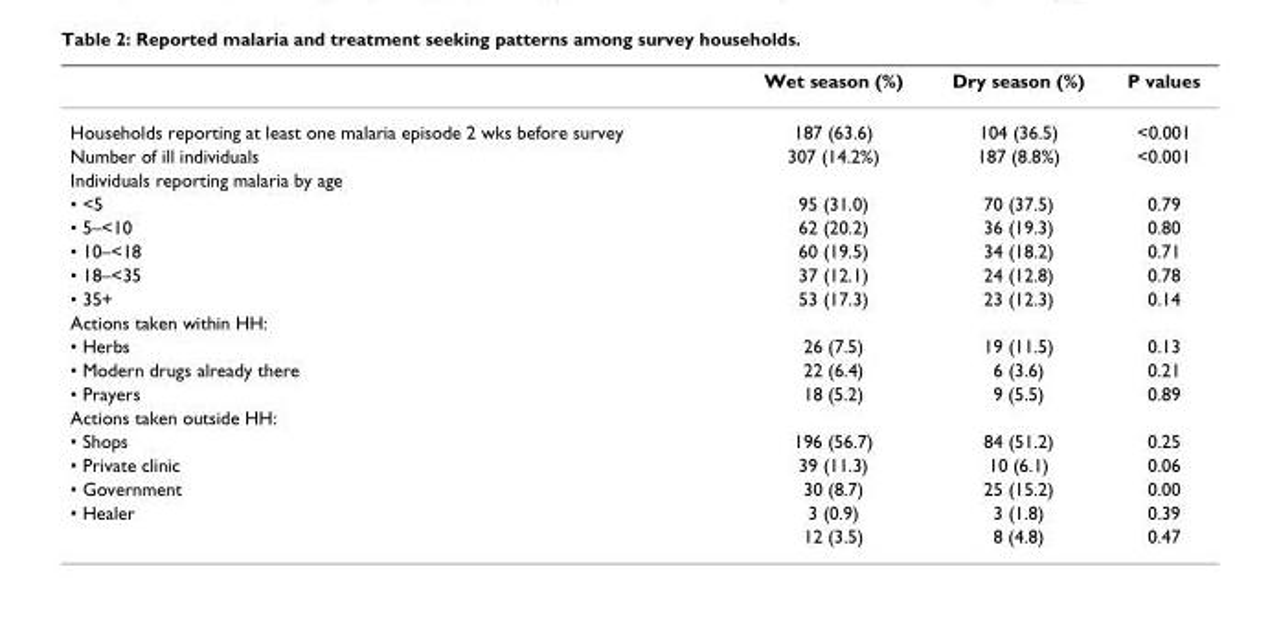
<table><thead><tr><td></td><td>Wet season (%)</td><td>Dry season (%)</td><td>P values</td></tr></thead><tbody><tr><td>Households reporting at least one malaria episode 2 wks before survey</td><td>187 (63.6)</td><td>104 (36.5)</td><td>&lt;0.001</td></tr><tr><td>Number of ill individuals</td><td>307 (14.2%)</td><td>187 (8.8%)</td><td>&lt;0.001</td></tr><tr><td colspan="4">Individuals reporting malaria by age</td></tr><tr><td>• &lt;5</td><td>95 (31.0)</td><td>70 (37.5)</td><td>0.79</td></tr><tr><td>• 5–&lt;10</td><td>62 (20.2)</td><td>36 (19.3)</td><td>0.80</td></tr><tr><td>• 10–&lt;18</td><td>60 (19.5)</td><td>34 (18.2)</td><td>0.71</td></tr><tr><td>• 18–&lt;35</td><td>37 (12.1)</td><td>24 (12.8)</td><td>0.78</td></tr><tr><td>• 35+</td><td>53 (17.3)</td><td>23 (12.3)</td><td>0.14</td></tr><tr><td colspan="4">Actions taken within HH:</td></tr><tr><td>• Herbs</td><td>26 (7.5)</td><td>19 (11.5)</td><td>0.13</td></tr><tr><td>• Modern drugs already there</td><td>22 (6.4)</td><td>6 (3.6)</td><td>0.21</td></tr><tr><td>• Prayers</td><td>18 (5.2)</td><td>9 (5.5)</td><td>0.89</td></tr><tr><td colspan="4">Actions taken outside HH:</td></tr><tr><td>• Shops</td><td>196 (56.7)</td><td>84 (51.2)</td><td>0.25</td></tr><tr><td>• Private clinic</td><td>39 (11.3)</td><td>10 (6.1)</td><td>0.06</td></tr><tr><td>• Government</td><td>30 (8.7)</td><td>25 (15.2)</td><td>0.00</td></tr><tr><td rowspan="2">• Healer</td><td>3 (0.9)</td><td>3 (1.8)</td><td>0.39</td></tr><tr><td>12 (3.5)</td><td>8 (4.8)</td><td>0.47</td></tr></tbody></table>